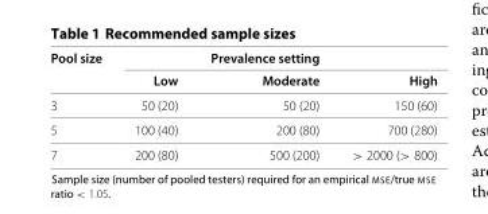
<table><thead><tr><td rowspan="2">Pool size</td><td rowspan="2">Low</td><td rowspan="2">Prevalence setting Moderate</td><td rowspan="2">High</td></tr><tr></tr></thead><tbody><tr><td>3</td><td>50 (20)</td><td>50 (20)</td><td>150 (60)</td></tr><tr><td>5</td><td>100 (40)</td><td>200 (80)</td><td>700 (280)</td></tr><tr><td>7</td><td>200 (80)</td><td>500 (200)</td><td>&gt; 2000 (&gt; 800)</td></tr></tbody></table>